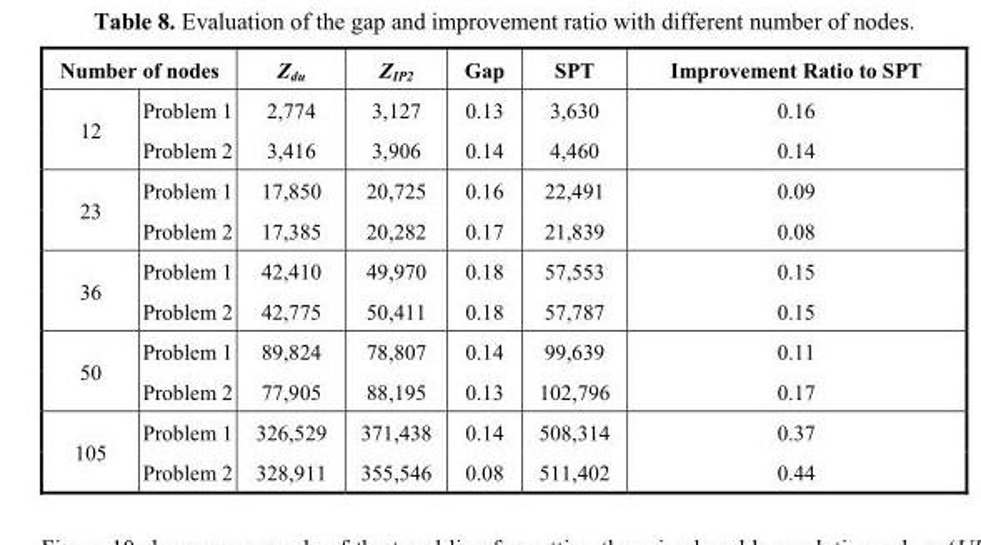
<table><thead><tr><td colspan="2">Number of nodes</td><td rowspan="2">Z<sub>du</sub> 2,774 3,416</td><td rowspan="2">Z<sub>IP2</sub> 3,127 3,906</td><td rowspan="2">Gap 0.13 0.14</td><td rowspan="2">SPT 3,630 4,460</td><td rowspan="2">Improvement Ratio to SPT 0.16 0.14</td></tr><tr><td>12</td><td>Problem 1 Problem 2</td></tr></thead><tbody><tr><td>23</td><td>Problem 1 Problem 2</td><td>17,850 17,385</td><td>20,725 20,282</td><td>0.16 0.17</td><td>22,491 21,839</td><td>0.09 0.08</td></tr><tr><td>36</td><td>Problem 1 Problem 2</td><td>42,410 42,775</td><td>49,970 50,411</td><td>0.18 0.18</td><td>57,553 57,787</td><td>0.15 0.15</td></tr><tr><td>50</td><td>Problem 1 Problem 2</td><td>89,824 77,905</td><td>78,807 88,195</td><td>0.14 0.13</td><td>99,639 102,796</td><td>0.11 0.17</td></tr><tr><td>105</td><td>Problem 1 Problem 2</td><td>326,529 328,911</td><td>371,438 355,546</td><td>0.14 0.08</td><td>508,314 511,402</td><td>0.37 0.44</td></tr></tbody></table>